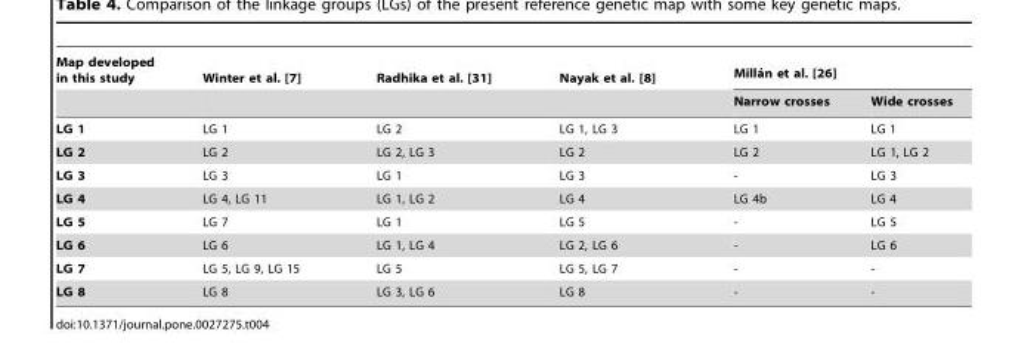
<table><thead><tr><td rowspan="2">Map developed in this study</td><td rowspan="2">Winter et al. [7]</td><td rowspan="2">Radhika et al. [31]</td><td rowspan="2">Nayak et al. [8]</td><td colspan="2">Milla´n et al. [26]</td></tr><tr><td>Narrow crosses</td><td>Wide crosses</td></tr></thead><tbody><tr><td>LG 1</td><td>LG 1</td><td>LG 2</td><td>LG 1, LG 3</td><td>LG 1</td><td>LG 1</td></tr><tr><td>LG 2</td><td>LG 2</td><td>LG 2, LG 3</td><td>LG 2</td><td>LG 2</td><td>LG 1, LG 2</td></tr><tr><td>LG 3</td><td>LG 3</td><td>LG 1</td><td>LG 3</td><td>-</td><td>LG 3</td></tr><tr><td>LG 4</td><td>LG 4, LG 11</td><td>LG 1, LG 2</td><td>LG 4</td><td>LG 4b</td><td>LG 4</td></tr><tr><td>LG 5</td><td>LG 7</td><td>LG 1</td><td>LG 5</td><td>-</td><td>LG 5</td></tr><tr><td>LG 6</td><td>LG 6</td><td>LG 1, LG 4</td><td>LG 2, LG 6</td><td>-</td><td>LG 6</td></tr><tr><td>LG 7</td><td>LG 5, LG 9, LG 15</td><td>LG 5</td><td>LG 5, LG 7</td><td>-</td><td>-</td></tr><tr><td>LG 8</td><td>LG 8</td><td>LG 3, LG 6</td><td>LG 8</td><td>-</td><td>-</td></tr></tbody></table>